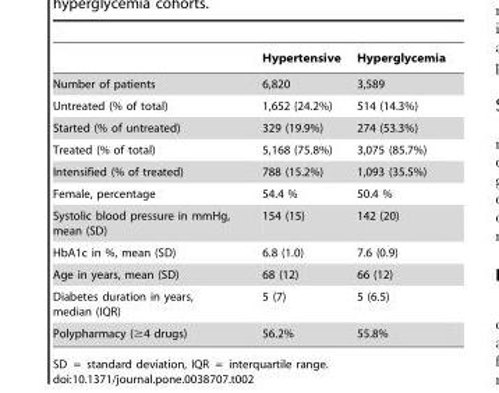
<table><thead><tr><td></td><td>Hypertensive</td><td>Hyperglycemia</td></tr></thead><tbody><tr><td>Number of patients</td><td>6,820</td><td>3,589</td></tr><tr><td>Untreated (% of total)</td><td>1,652 (24.2%)</td><td>514 (14.3%)</td></tr><tr><td>Started (% of untreated)</td><td>329 (19.9%)</td><td>274 (53.3%)</td></tr><tr><td>Treated (% of total)</td><td>5,168 (75.8%)</td><td>3,075 (85.7%)</td></tr><tr><td>Intensified (% of treated)</td><td>788 (15.2%)</td><td>1,093 (35.5%)</td></tr><tr><td>Female, percentage</td><td>54.4 %</td><td>50.4 %</td></tr><tr><td>Systolic blood pressure in mmHg, mean (SD)</td><td>154 (15)</td><td>142 (20)</td></tr><tr><td>HbA1c in %, mean (SD)</td><td>6.8 (1.0)</td><td>7.6 (0.9)</td></tr><tr><td>Age in years, mean (SD)</td><td>68 (12)</td><td>66 (12)</td></tr><tr><td>Diabetes duration in years, median (IQR)</td><td>5 (7)</td><td>5 (6.5)</td></tr><tr><td>Polypharmacy (≥4 drugs)</td><td>56.2%</td><td>55.8%</td></tr></tbody></table>